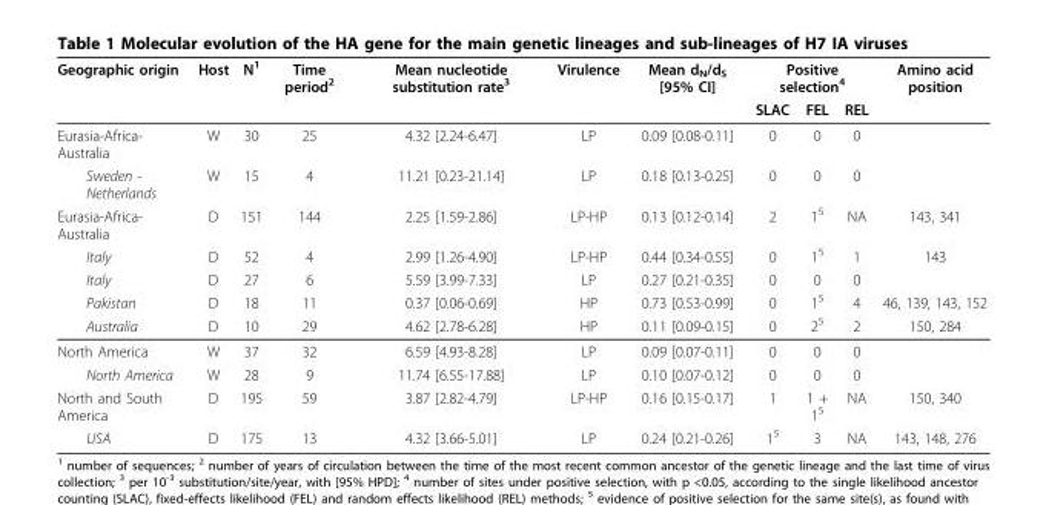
<table><thead><tr><td rowspan="2">Geographic origin</td><td rowspan="2">Host</td><td rowspan="2">N<sup>1</sup></td><td rowspan="2">Time period<sup>2</sup></td><td rowspan="2">Mean nucleotide substitution rate<sup>3</sup></td><td rowspan="2">Virulence</td><td rowspan="2">Mean d<sub>N</sub>/d<sub>S</sub> [95% CI]</td><td colspan="3">Positive selection<sup>4</sup></td><td rowspan="2">Amino acid position</td></tr><tr><td>SLAC</td><td>FEL</td><td>REL</td></tr></thead><tbody><tr><td>Eurasia-Africa- Australia</td><td>W</td><td>30</td><td>25</td><td>4.32 [2.24-6.47]</td><td>LP</td><td>0.09 [0.08-0.11]</td><td>0</td><td>0</td><td>0</td><td></td></tr><tr><td>Sweden - Netherlands</td><td>W</td><td>15</td><td>4</td><td>11.21 [0.23-21.14]</td><td>LP</td><td>0.18 [0.13-0.25]</td><td>0</td><td>0</td><td>0</td><td></td></tr><tr><td>Eurasia-Africa- Australia</td><td>D</td><td>151</td><td>144</td><td>2.25 [1.59-2.86]</td><td>LP-HP</td><td>0.13 [0.12-0.14]</td><td>2</td><td>1<sup>5</sup></td><td>NA</td><td>143, 341</td></tr><tr><td>Italy</td><td>D</td><td>52</td><td>4</td><td>2.99 [1.26-4.90]</td><td>LP-HP</td><td>0.44 [0.34-0.55]</td><td>0</td><td>1<sup>5</sup></td><td>1</td><td>143</td></tr><tr><td>Italy</td><td>D</td><td>27</td><td>6</td><td>5.59 [3.99-7.33]</td><td>LP</td><td>0.27 [0.21-0.35]</td><td>0</td><td>0</td><td>0</td><td></td></tr><tr><td>Pakistan</td><td>D</td><td>18</td><td>11</td><td>0.37 [0.06-0.69]</td><td>HP</td><td>0.73 [0.53-0.99]</td><td>0</td><td>1<sup>5</sup></td><td>4</td><td>46, 139, 143, 152</td></tr><tr><td>Australia</td><td>D</td><td>10</td><td>29</td><td>4.62 [2.78-6.28]</td><td>HP</td><td>0.11 [0.09-0.15]</td><td>0</td><td>2<sup>5</sup></td><td>2</td><td>150, 284</td></tr><tr><td>North America</td><td>W</td><td>37</td><td>32</td><td>6.59 [4.93-8.28]</td><td>LP</td><td>0.09 [0.07-0.11]</td><td>0</td><td>0</td><td>0</td><td></td></tr><tr><td>North America</td><td>W</td><td>28</td><td>9</td><td>11.74 [6.55-17.88]</td><td>LP</td><td>0.10 [0.07-0.12]</td><td>0</td><td>0</td><td>0</td><td></td></tr><tr><td>North and South America</td><td>D</td><td>195</td><td>59</td><td>3.87 [2.82-4.79]</td><td>LP-HP</td><td>0.16 [0.15-0.17]</td><td>1</td><td>1 + 1<sup>5</sup></td><td>NA</td><td>150, 340</td></tr><tr><td>USA</td><td>D</td><td>175</td><td>13</td><td>4.32 [3.66-5.01]</td><td>LP</td><td>0.24 [0.21-0.26]</td><td>1<sup>5</sup></td><td>3</td><td>NA</td><td>143, 148, 276</td></tr></tbody></table>